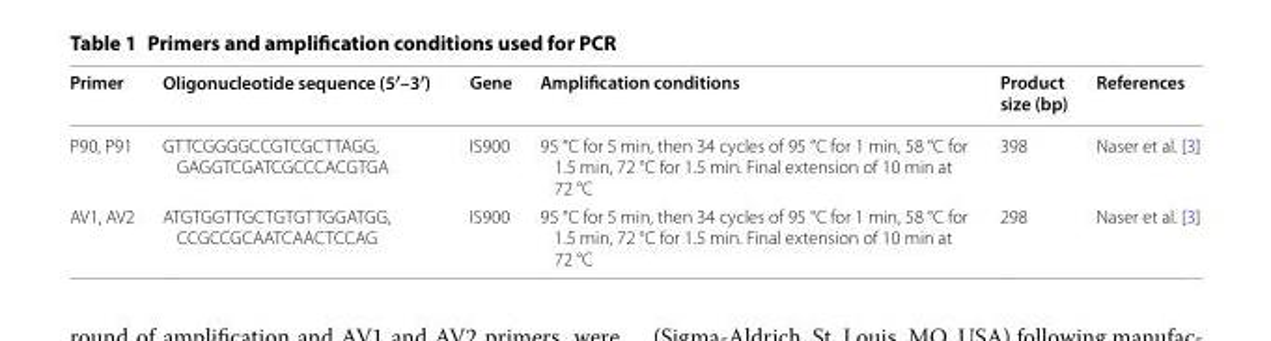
<table><thead><tr><td>Primer</td><td>Oligonucleotide sequence (5′–3′)</td><td>Gene</td><td>Amplification conditions</td><td>Product size (bp)</td><td>References</td></tr></thead><tbody><tr><td>P90, P91</td><td>GTTCGGGGCCGTCGCTTAGG, GAGGTCGATCGCCCACGTGA</td><td>IS900</td><td>95 °C for 5 min, then 34 cycles of 95 °C for 1 min, 58 °C for 1.5 min, 72 °C for 1.5 min. Final extension of 10 min at 72 °C</td><td>398</td><td>Naser et al. [3]</td></tr><tr><td>AV1, AV2</td><td>ATGTGGTTGCTGTGTTGGATGG, CCGCCGCAATCAACTCCAG</td><td>IS900</td><td>95 °C for 5 min, then 34 cycles of 95 °C for 1 min, 58 °C for 1.5 min, 72 °C for 1.5 min. Final extension of 10 min at 72 °C</td><td>298</td><td>Naser et al. [3]</td></tr></tbody></table>